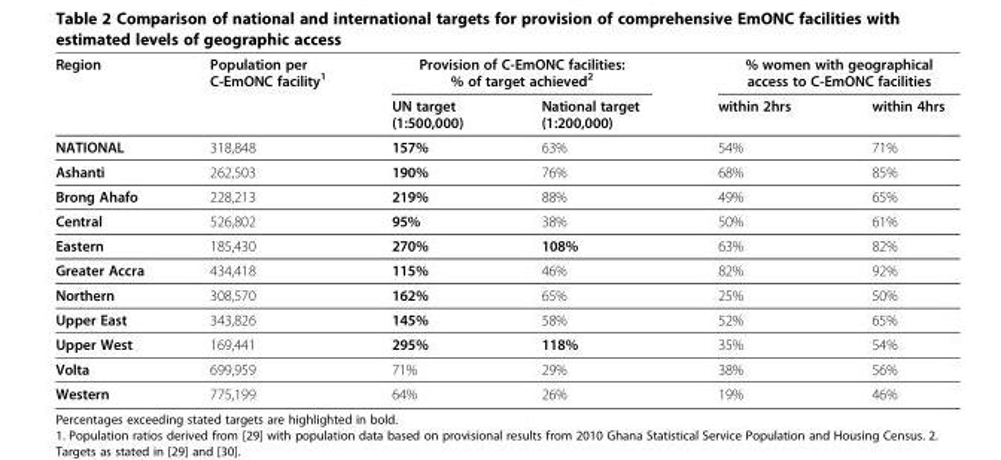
<table><thead><tr><td rowspan="2">Region</td><td rowspan="2">Population per C-EmONC facility<sup>1</sup></td><td colspan="2">Provision of C-EmONC facilities: % of target achieved<sup>2</sup></td><td colspan="2">% women with geographical access to C-EmONC facilities</td></tr><tr><td>UN target (1:500,000)</td><td>National target (1:200,000)</td><td>within 2hrs</td><td>within 4hrs</td></tr></thead><tbody><tr><td>NATIONAL</td><td>318,848</td><td>157%</td><td>63%</td><td>54%</td><td>71%</td></tr><tr><td>Ashanti</td><td>262,503</td><td>190%</td><td>76%</td><td>68%</td><td>85%</td></tr><tr><td>Brong Ahafo</td><td>228,213</td><td>219%</td><td>88%</td><td>49%</td><td>65%</td></tr><tr><td>Central</td><td>526,802</td><td>95%</td><td>38%</td><td>50%</td><td>61%</td></tr><tr><td>Eastern</td><td>185,430</td><td>270%</td><td>108%</td><td>63%</td><td>82%</td></tr><tr><td>Greater Accra</td><td>434,418</td><td>115%</td><td>46%</td><td>82%</td><td>92%</td></tr><tr><td>Northern</td><td>308,570</td><td>162%</td><td>65%</td><td>25%</td><td>50%</td></tr><tr><td>Upper East</td><td>343,826</td><td>145%</td><td>58%</td><td>52%</td><td>65%</td></tr><tr><td>Upper West</td><td>169,441</td><td>295%</td><td>118%</td><td>35%</td><td>54%</td></tr><tr><td>Volta</td><td>699,959</td><td>71%</td><td>29%</td><td>38%</td><td>56%</td></tr><tr><td>Western</td><td>775,199</td><td>64%</td><td>26%</td><td>19%</td><td>46%</td></tr></tbody></table>